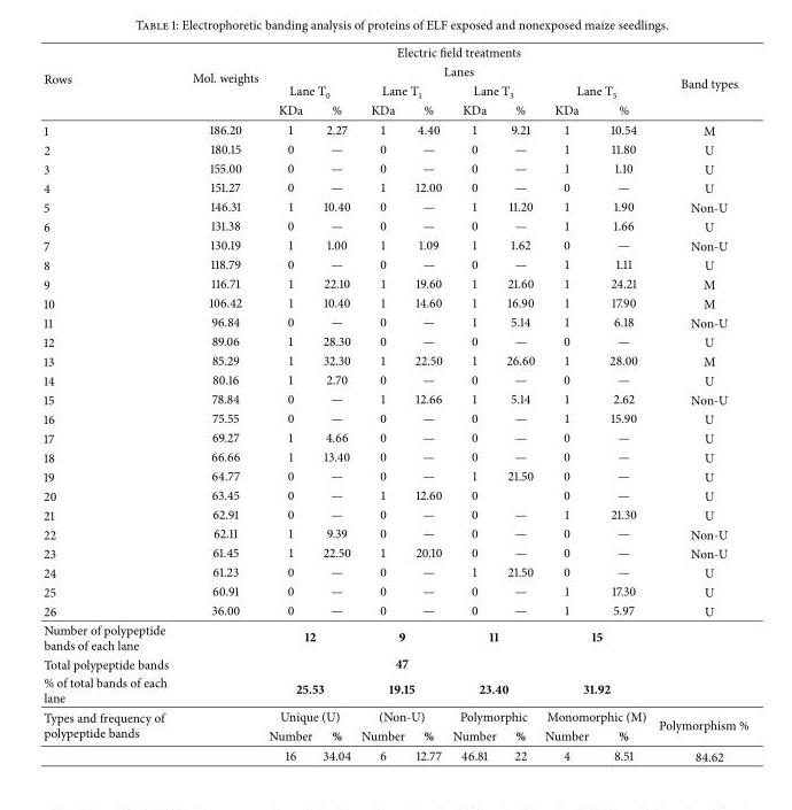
<table><thead><tr><td rowspan="4">Rows</td><td rowspan="4">Mol. weights</td><td rowspan="2" colspan="8">Electric field treatments Lanes</td><td rowspan="4">Band types</td></tr><tr></tr><tr><td colspan="2">Lane T0</td><td colspan="2">Lane T1</td><td colspan="2">Lane T3</td><td colspan="2">Lane T5</td></tr><tr><td>KDa</td><td>%</td><td>KDa</td><td>%</td><td>KDa</td><td>%</td><td>KDa</td><td>%</td></tr></thead><tbody><tr><td>1</td><td>186.20</td><td>1</td><td>2.27</td><td>1</td><td>4.40</td><td>1</td><td>9.21</td><td>1</td><td>10.54</td><td>M</td></tr><tr><td>2</td><td>180.15</td><td>0</td><td>—</td><td>0</td><td>—</td><td>0</td><td>—</td><td>1</td><td>11.80</td><td>U</td></tr><tr><td>3</td><td>155.00</td><td>0</td><td>—</td><td>0</td><td>—</td><td>0</td><td>—</td><td>1</td><td>1.10</td><td>U</td></tr><tr><td>4</td><td>151.27</td><td>0</td><td>—</td><td>1</td><td>12.00</td><td>0</td><td>—</td><td>0</td><td>—</td><td>U</td></tr><tr><td>5</td><td>146.31</td><td>1</td><td>10.40</td><td>0</td><td>—</td><td>1</td><td>11.20</td><td>1</td><td>1.90</td><td>Non-U</td></tr><tr><td>6</td><td>131.38</td><td>0</td><td>—</td><td>0</td><td>—</td><td>0</td><td>—</td><td>1</td><td>1.66</td><td>U</td></tr><tr><td>7</td><td>130.19</td><td>1</td><td>1.00</td><td>1</td><td>1.09</td><td>1</td><td>1.62</td><td>0</td><td>—</td><td>Non-U</td></tr><tr><td>8</td><td>118.79</td><td>0</td><td>—</td><td>0</td><td>—</td><td>0</td><td>—</td><td>1</td><td>1.11</td><td>U</td></tr><tr><td>9</td><td>116.71</td><td>1</td><td>22.10</td><td>1</td><td>19.60</td><td>1</td><td>21.60</td><td>1</td><td>24.21</td><td>M</td></tr><tr><td>10</td><td>106.42</td><td>1</td><td>10.40</td><td>1</td><td>14.60</td><td>1</td><td>16.90</td><td>1</td><td>17.90</td><td>M</td></tr><tr><td>11</td><td>96.84</td><td>0</td><td>—</td><td>0</td><td>—</td><td>1</td><td>5.14</td><td>1</td><td>6.18</td><td>Non-U</td></tr><tr><td>12</td><td>89.06</td><td>1</td><td>28.30</td><td>0</td><td>—</td><td>0</td><td>—</td><td>0</td><td>—</td><td>U</td></tr><tr><td>13</td><td>85.29</td><td>1</td><td>32.30</td><td>1</td><td>22.50</td><td>1</td><td>26.60</td><td>1</td><td>28.00</td><td>M</td></tr><tr><td>14</td><td>80.16</td><td>1</td><td>2.70</td><td>0</td><td>—</td><td>0</td><td>—</td><td>0</td><td>—</td><td>U</td></tr><tr><td>15</td><td>78.84</td><td>0</td><td>—</td><td>1</td><td>12.66</td><td>1</td><td>5.14</td><td>1</td><td>2.62</td><td>Non-U</td></tr><tr><td>16</td><td>75.55</td><td>0</td><td>—</td><td>0</td><td>—</td><td>0</td><td>—</td><td>1</td><td>15.90</td><td>U</td></tr><tr><td>17</td><td>69.27</td><td>1</td><td>4.66</td><td>0</td><td>—</td><td>0</td><td>—</td><td>0</td><td>—</td><td>U</td></tr><tr><td>18</td><td>66.66</td><td>1</td><td>13.40</td><td>0</td><td>—</td><td>0</td><td>—</td><td>0</td><td>—</td><td>U</td></tr><tr><td>19</td><td>64.77</td><td>0</td><td>—</td><td>0</td><td>—</td><td>1</td><td>21.50</td><td>0</td><td>—</td><td>U</td></tr><tr><td>20</td><td>63.45</td><td>0</td><td>—</td><td>1</td><td>12.60</td><td>0</td><td></td><td>0</td><td>—</td><td>U</td></tr><tr><td>21</td><td>62.91</td><td>0</td><td>—</td><td>0</td><td>—</td><td>0</td><td>—</td><td>1</td><td>21.30</td><td>U</td></tr><tr><td>22</td><td>62.11</td><td>1</td><td>9.39</td><td>0</td><td>—</td><td>0</td><td>—</td><td>0</td><td>—</td><td>Non-U</td></tr><tr><td>23</td><td>61.45</td><td>1</td><td>22.50</td><td>1</td><td>20.10</td><td>0</td><td>—</td><td>0</td><td>—</td><td>Non-U</td></tr><tr><td>24</td><td>61.23</td><td>0</td><td>—</td><td>0</td><td>—</td><td>1</td><td>21.50</td><td>0</td><td>—</td><td>U</td></tr><tr><td>25</td><td>60.91</td><td>0</td><td>—</td><td>0</td><td>—</td><td>0</td><td>—</td><td>1</td><td>17.30</td><td>U</td></tr><tr><td>26</td><td>36.00</td><td>0</td><td>—</td><td>0</td><td>—</td><td>0</td><td>—</td><td>1</td><td>5.97</td><td>U</td></tr><tr><td>Number of polypeptide bands of each lane</td><td></td><td colspan="2">12</td><td colspan="2">9</td><td colspan="2">11</td><td colspan="2">15</td><td></td></tr><tr><td>Total polypeptide bands</td><td></td><td></td><td></td><td colspan="2">47</td><td></td><td></td><td></td><td></td><td></td></tr><tr><td>% of total bands of each lane</td><td></td><td colspan="2">25.53</td><td colspan="2">19.15</td><td colspan="2">23.40</td><td colspan="2">31.92</td><td></td></tr><tr><td rowspan="3">Types and frequency of polypeptide bands</td><td></td><td colspan="2">Unique (U)</td><td colspan="2">(Non-U)</td><td colspan="2">Polymorphic</td><td colspan="2">Monomorphic (M)</td><td rowspan="2">Polymorphism %</td></tr><tr><td></td><td>Number</td><td>%</td><td>Number</td><td>%</td><td>Number</td><td>%</td><td>Number</td><td>%</td></tr><tr><td></td><td>16</td><td>34.04</td><td>6</td><td>12.77</td><td>46.81</td><td>22</td><td>4</td><td>8.51</td><td>84.62</td></tr></tbody></table>